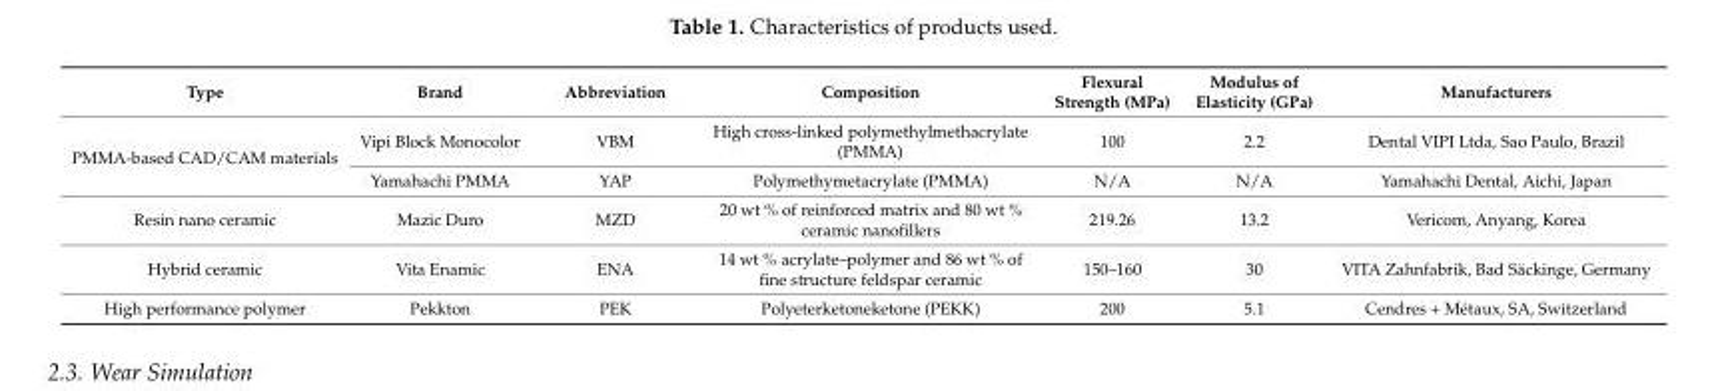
<table><thead><tr><td>Type</td><td>Brand</td><td>Abbreviation</td><td>Composition</td><td>Flexural Strength (MPa)</td><td>Modulus of Elasticity (GPa)</td><td>Manufacturers</td></tr></thead><tbody><tr><td rowspan="2">PMMA-based CAD/CAM materials</td><td>Vipi Block Monocolor</td><td>VBM</td><td>High cross-linked polymethylmethacrylate (PMMA)</td><td>100</td><td>2.2</td><td>Dental VIPI Ltda, Sao Paulo, Brazil</td></tr><tr><td>Yamahachi PMMA</td><td>YAP</td><td>Polymethymetacrylate (PMMA)</td><td>N/A</td><td>N/A</td><td>Yamahachi Dental, Aichi, Japan</td></tr><tr><td>Resin nano ceramic</td><td>Mazic Duro</td><td>MZD</td><td>20 wt % of reinforced matrix and 80 wt % ceramic nanofillers</td><td>219.26</td><td>13.2</td><td>Vericom, Anyang, Korea</td></tr><tr><td>Hybrid ceramic</td><td>Vita Enamic</td><td>ENA</td><td>14 wt % acrylate–polymer and 86 wt % of fine structure feldspar ceramic</td><td>150–160</td><td>30</td><td>VITA Zahnfabrik, Bad Säckinge, Germany</td></tr><tr><td>High performance polymer</td><td>Pekkton</td><td>PEK</td><td>Polyeterketoneketone (PEKK)</td><td>200</td><td>5.1</td><td>Cendres + Métaux, SA, Switzerland</td></tr></tbody></table>